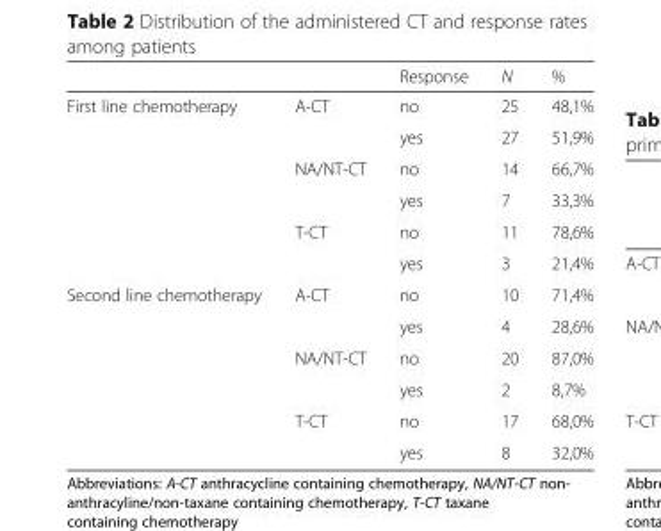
<table><thead><tr><td></td><td></td><td>Response</td><td>N</td><td>%</td></tr></thead><tbody><tr><td rowspan="6">First line chemotherapy</td><td rowspan="2">A-CT</td><td>no</td><td>25</td><td>48,1%</td></tr><tr><td>yes</td><td>27</td><td>51,9%</td></tr><tr><td rowspan="2">NA/NT-CT</td><td>no</td><td>14</td><td>66,7%</td></tr><tr><td>yes</td><td>7</td><td>33,3%</td></tr><tr><td rowspan="2">T-CT</td><td>no</td><td>11</td><td>78,6%</td></tr><tr><td>yes</td><td>3</td><td>21,4%</td></tr><tr><td rowspan="6">Second line chemotherapy</td><td rowspan="2">A-CT</td><td>no</td><td>10</td><td>71,4%</td></tr><tr><td>yes</td><td>4</td><td>28,6%</td></tr><tr><td rowspan="2">NA/NT-CT</td><td>no</td><td>20</td><td>87,0%</td></tr><tr><td>yes</td><td>2</td><td>8,7%</td></tr><tr><td rowspan="2">T-CT</td><td>no</td><td>17</td><td>68,0%</td></tr><tr><td>yes</td><td>8</td><td>32,0%</td></tr></tbody></table>